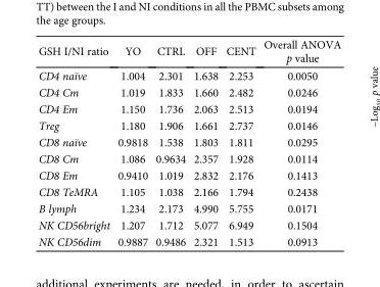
<table><thead><tr><td>GSH I/NI ratio</td><td>YO</td><td>CTRL</td><td>OFF</td><td>CENT</td><td>Overall ANOVA p value</td></tr></thead><tbody><tr><td>CD4 naïve</td><td>1.004</td><td>2.301</td><td>1.638</td><td>2.253</td><td>0.0050</td></tr><tr><td>CD4 Cm</td><td>1.019</td><td>1.833</td><td>1.660</td><td>2.482</td><td>0.0246</td></tr><tr><td>CD4 Em</td><td>1.150</td><td>1.736</td><td>2.063</td><td>2.513</td><td>0.0194</td></tr><tr><td>Treg</td><td>1.180</td><td>1.906</td><td>1.661</td><td>2.737</td><td>0.0146</td></tr><tr><td>CD8 naïve</td><td>0.9818</td><td>1.538</td><td>1.803</td><td>1.811</td><td>0.0295</td></tr><tr><td>CD8 Cm</td><td>1.086</td><td>0.9634</td><td>2.357</td><td>1.928</td><td>0.0114</td></tr><tr><td>CD8 Em</td><td>0.9410</td><td>1.019</td><td>2.832</td><td>2.176</td><td>0.1413</td></tr><tr><td>CD8 TeMRA</td><td>1.105</td><td>1.038</td><td>2.166</td><td>1.794</td><td>0.2438</td></tr><tr><td>B lymph</td><td>1.234</td><td>2.173</td><td>4.990</td><td>5.755</td><td>0.0171</td></tr><tr><td>NK CD56bright</td><td>1.207</td><td>1.712</td><td>5.077</td><td>6.949</td><td>0.1504</td></tr><tr><td>NK CD56dim</td><td>0.9887</td><td>0.9486</td><td>2.321</td><td>1.513</td><td>0.0913</td></tr></tbody></table>